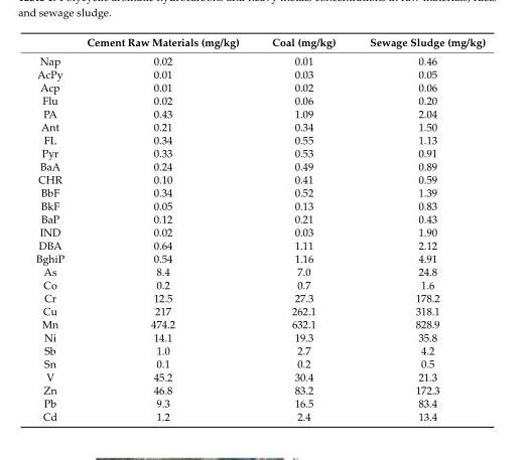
<table><thead><tr><td></td><td>Cement Raw Materials (mg/kg)</td><td>Coal (mg/kg)</td><td>Sewage Sludge (mg/kg)</td></tr></thead><tbody><tr><td>Nap</td><td>0.02</td><td>0.01</td><td>0.46</td></tr><tr><td>AcPy</td><td>0.01</td><td>0.03</td><td>0.05</td></tr><tr><td>Acp</td><td>0.01</td><td>0.02</td><td>0.06</td></tr><tr><td>Flu</td><td>0.02</td><td>0.06</td><td>0.20</td></tr><tr><td>PA</td><td>0.43</td><td>1.09</td><td>2.04</td></tr><tr><td>Ant</td><td>0.21</td><td>0.34</td><td>1.50</td></tr><tr><td>FL</td><td>0.34</td><td>0.55</td><td>1.13</td></tr><tr><td>Pyr</td><td>0.33</td><td>0.53</td><td>0.91</td></tr><tr><td>BaA</td><td>0.24</td><td>0.49</td><td>0.89</td></tr><tr><td>CHR</td><td>0.10</td><td>0.41</td><td>0.59</td></tr><tr><td>BbF</td><td>0.34</td><td>0.52</td><td>1.39</td></tr><tr><td>BkF</td><td>0.05</td><td>0.13</td><td>0.83</td></tr><tr><td>BaP</td><td>0.12</td><td>0.21</td><td>0.43</td></tr><tr><td>IND</td><td>0.02</td><td>0.03</td><td>1.90</td></tr><tr><td>DBA</td><td>0.64</td><td>1.11</td><td>2.12</td></tr><tr><td>BghiP</td><td>0.54</td><td>1.16</td><td>4.91</td></tr><tr><td>As</td><td>8.4</td><td>7.0</td><td>24.8</td></tr><tr><td>Co</td><td>0.2</td><td>0.7</td><td>1.6</td></tr><tr><td>Cr</td><td>12.5</td><td>27.3</td><td>178.2</td></tr><tr><td>Cu</td><td>217</td><td>262.1</td><td>318.1</td></tr><tr><td>Mn</td><td>474.2</td><td>632.1</td><td>828.9</td></tr><tr><td>Ni</td><td>14.1</td><td>19.3</td><td>35.8</td></tr><tr><td>Sb</td><td>1.0</td><td>2.7</td><td>4.2</td></tr><tr><td>Sn</td><td>0.1</td><td>0.2</td><td>0.5</td></tr><tr><td>V</td><td>45.2</td><td>30.4</td><td>21.3</td></tr><tr><td>Zn</td><td>46.8</td><td>83.2</td><td>172.3</td></tr><tr><td>Pb</td><td>9.3</td><td>16.5</td><td>83.4</td></tr><tr><td>Cd</td><td>1.2</td><td>2.4</td><td>13.4</td></tr></tbody></table>